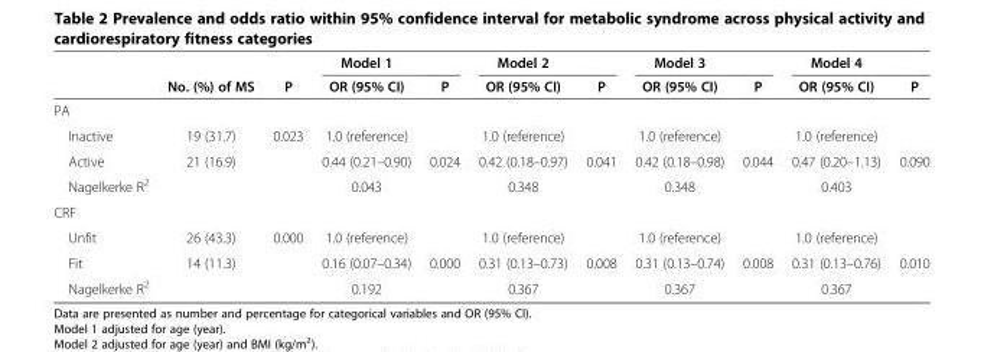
<table><thead><tr><td rowspan="2"></td><td rowspan="2">No. (%) of MS</td><td rowspan="2">P</td><td rowspan="2">Model 1 OR (95% CI)</td><td rowspan="2">P</td><td rowspan="2">Model 2 OR (95% CI)</td><td rowspan="2">P</td><td rowspan="2">Model 3 OR (95% CI)</td><td rowspan="2">P</td><td rowspan="2">Model 4 OR (95% CI)</td><td rowspan="2">P</td></tr><tr></tr></thead><tbody><tr><td colspan="11">PA</td></tr><tr><td>Inactive</td><td>19 (31.7)</td><td>0.023</td><td>1.0 (reference)</td><td></td><td>1.0 (reference)</td><td></td><td>1.0 (reference)</td><td></td><td>1.0 (reference)</td><td></td></tr><tr><td>Active</td><td>21 (16.9)</td><td></td><td>0.44 (0.21–0.90)</td><td>0.024</td><td>0.42 (0.18–0.97)</td><td>0.041</td><td>0.42 (0.18–0.98)</td><td>0.044</td><td>0.47 (0.20–1.13)</td><td>0.090</td></tr><tr><td>Nagelkerke R<sup>2</sup></td><td></td><td></td><td>0.043</td><td></td><td>0.348</td><td></td><td>0.348</td><td></td><td>0.403</td><td></td></tr><tr><td colspan="11">CRF</td></tr><tr><td>Unfit</td><td>26 (43.3)</td><td>0.000</td><td>1.0 (reference)</td><td></td><td>1.0 (reference)</td><td></td><td>1.0 (reference)</td><td></td><td>1.0 (reference)</td><td></td></tr><tr><td>Fit</td><td>14 (11.3)</td><td></td><td>0.16 (0.07–0.34)</td><td>0.000</td><td>0.31 (0.13–0.73)</td><td>0.008</td><td>0.31 (0.13–0.74)</td><td>0.008</td><td>0.31 (0.13–0.76)</td><td>0.010</td></tr><tr><td>Nagelkerke R<sup>2</sup></td><td></td><td></td><td>0.192</td><td></td><td>0.367</td><td></td><td>0.367</td><td></td><td>0.367</td><td></td></tr></tbody></table>